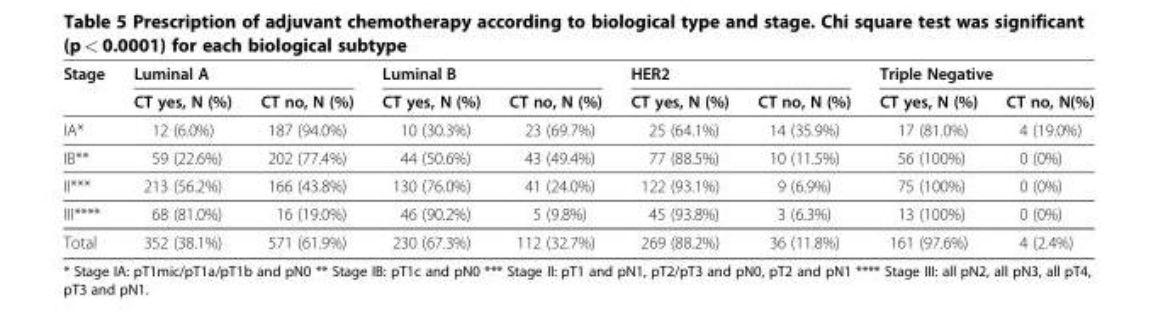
<table><thead><tr><td rowspan="2">Stage</td><td colspan="2">Luminal A</td><td colspan="2">Luminal B</td><td colspan="2">HER2</td><td colspan="2">Triple Negative</td></tr><tr><td>CT yes, N (%)</td><td>CT no, N (%)</td><td>CT yes, N (%)</td><td>CT no, N (%)</td><td>CT yes, N (%)</td><td>CT no, N (%)</td><td>CT yes, N (%)</td><td>CT no, N(%)</td></tr></thead><tbody><tr><td>IA*</td><td>12 (6.0%)</td><td>187 (94.0%)</td><td>10 (30.3%)</td><td>23 (69.7%)</td><td>25 (64.1%)</td><td>14 (35.9%)</td><td>17 (81.0%)</td><td>4 (19.0%)</td></tr><tr><td>IB**</td><td>59 (22.6%)</td><td>202 (77.4%)</td><td>44 (50.6%)</td><td>43 (49.4%)</td><td>77 (88.5%)</td><td>10 (11.5%)</td><td>56 (100%)</td><td>0 (0%)</td></tr><tr><td>II***</td><td>213 (56.2%)</td><td>166 (43.8%)</td><td>130 (76.0%)</td><td>41 (24.0%)</td><td>122 (93.1%)</td><td>9 (6.9%)</td><td>75 (100%)</td><td>0 (0%)</td></tr><tr><td>III****</td><td>68 (81.0%)</td><td>16 (19.0%)</td><td>46 (90.2%)</td><td>5 (9.8%)</td><td>45 (93.8%)</td><td>3 (6.3%)</td><td>13 (100%)</td><td>0 (0%)</td></tr><tr><td>Total</td><td>352 (38.1%)</td><td>571 (61.9%)</td><td>230 (67.3%)</td><td>112 (32.7%)</td><td>269 (88.2%)</td><td>36 (11.8%)</td><td>161 (97.6%)</td><td>4 (2.4%)</td></tr></tbody></table>